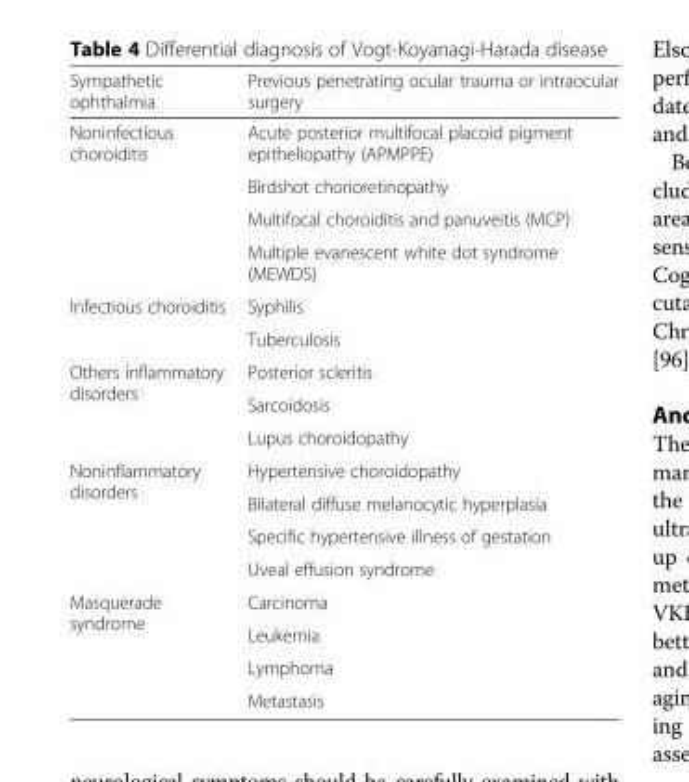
<table><thead><tr><td>Sympathetic ophthalmia</td><td>Previous penetrating ocular trauma or intraocular surgery</td></tr></thead><tbody><tr><td rowspan="4">Noninfectious choroiditis</td><td>Acute posterior multifocal placoid pigment epitheliopathy (APMPPE)</td></tr><tr><td>Birdshot chorioretinopathy</td></tr><tr><td>Multifocal choroiditis and panuveitis (MCP)</td></tr><tr><td>Multiple evanescent white dot syndrome (MEWDS)</td></tr><tr><td rowspan="2">Infectious choroiditis</td><td>Syphilis</td></tr><tr><td>Tuberculosis</td></tr><tr><td rowspan="3">Others inflammatory disorders</td><td>Posterior scleritis</td></tr><tr><td>Sarcoidosis</td></tr><tr><td>Lupus choroidopathy</td></tr><tr><td rowspan="4">Noninflammatory disorders</td><td>Hypertensive choroidopathy</td></tr><tr><td>Bilateral diffuse melanocytic hyperplasia</td></tr><tr><td>Specific hypertensive illness of gestation</td></tr><tr><td>Uveal effusion syndrome</td></tr><tr><td rowspan="4">Masquerade syndrome</td><td>Carcinoma</td></tr><tr><td>Leukemia</td></tr><tr><td>Lymphoma</td></tr><tr><td>Metastasis</td></tr></tbody></table>